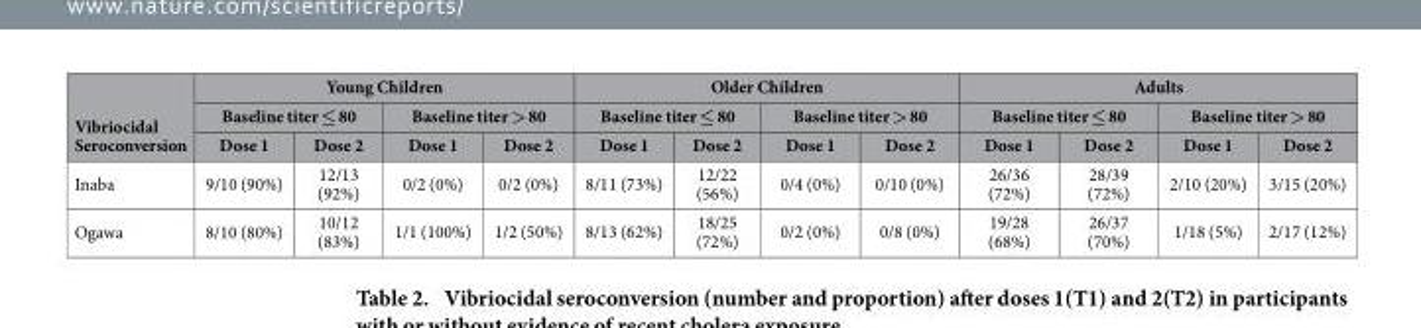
<table><thead><tr><td rowspan="3">Vibriocidal Seroconversion</td><td colspan="4">Young Children</td><td colspan="4">Older Children</td><td colspan="4">Adults</td></tr><tr><td colspan="2">Baseline titer ≤ 80</td><td colspan="2">Baseline titer &gt; 80</td><td colspan="2">Baseline titer ≤ 80</td><td colspan="2">Baseline titer &gt; 80</td><td colspan="2">Baseline titer ≤ 80</td><td colspan="2">Baseline titer &gt; 80</td></tr><tr><td>Dose 1</td><td>Dose 2</td><td>Dose 1</td><td>Dose 2</td><td>Dose 1</td><td>Dose 2</td><td>Dose 1</td><td>Dose 2</td><td>Dose 1</td><td>Dose 2</td><td>Dose 1</td><td>Dose 2</td></tr></thead><tbody><tr><td>Inaba</td><td>9/10 (90%)</td><td>12/13 (92%)</td><td>0/2 (0%)</td><td>0/2 (0%)</td><td>8/11 (73%)</td><td>12/22 (56%)</td><td>0/4 (0%)</td><td>0/10 (0%)</td><td>26/36 (72%)</td><td>28/39 (72%)</td><td>2/10 (20%)</td><td>3/15 (20%)</td></tr><tr><td>Ogawa</td><td>8/10 (80%)</td><td>10/12 (83%)</td><td>1/1 (100%)</td><td>1/2 (50%)</td><td>8/13 (62%)</td><td>18/25 (72%)</td><td>0/2 (0%)</td><td>0/8 (0%)</td><td>19/28 (68%)</td><td>26/37 (70%)</td><td>1/18 (5%)</td><td>2/17 (12%)</td></tr></tbody></table>